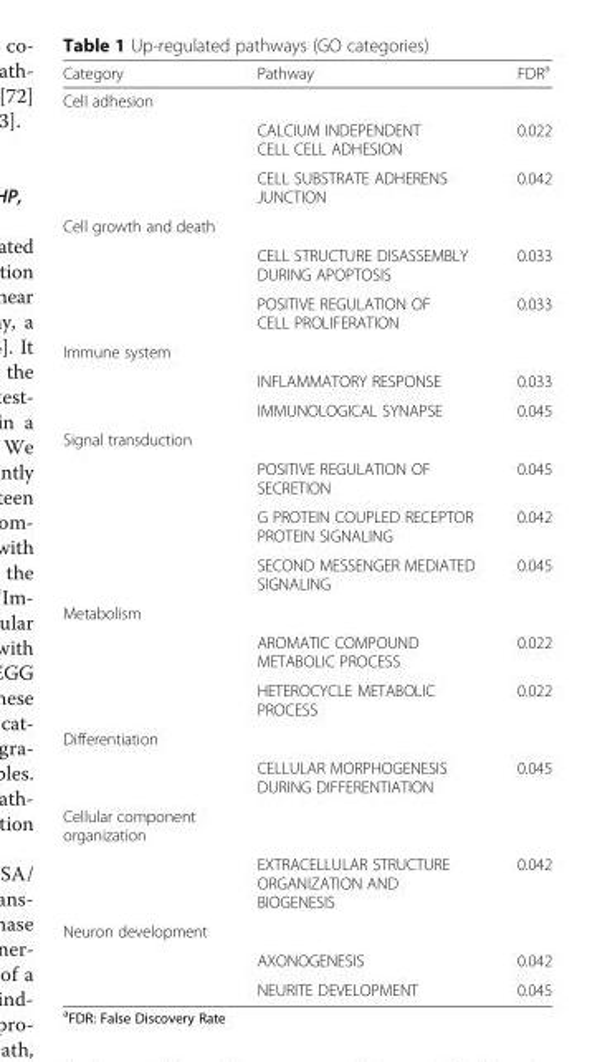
<table><thead><tr><td>Category</td><td>Pathway</td><td>FDR<sup>a</sup></td></tr></thead><tbody><tr><td colspan="3">Cell adhesion</td></tr><tr><td></td><td>CALCIUM INDEPENDENT CELL CELL ADHESION</td><td>0.022</td></tr><tr><td></td><td>CELL SUBSTRATE ADHERENS JUNCTION</td><td>0.042</td></tr><tr><td colspan="3">Cell growth and death</td></tr><tr><td></td><td>CELL STRUCTURE DISASSEMBLY DURING APOPTOSIS</td><td>0.033</td></tr><tr><td></td><td>POSITIVE REGULATION OF CELL PROLIFERATION</td><td>0.033</td></tr><tr><td colspan="3">Immune system</td></tr><tr><td></td><td>INFLAMMATORY RESPONSE</td><td>0.033</td></tr><tr><td></td><td>IMMUNOLOGICAL SYNAPSE</td><td>0.045</td></tr><tr><td colspan="3">Signal transduction</td></tr><tr><td></td><td>POSITIVE REGULATION OF SECRETION</td><td>0.045</td></tr><tr><td></td><td>G PROTEIN COUPLED RECEPTOR PROTEIN SIGNALING</td><td>0.042</td></tr><tr><td></td><td>SECOND MESSENGER MEDIATED SIGNALING</td><td>0.045</td></tr><tr><td colspan="3">Metabolism</td></tr><tr><td></td><td>AROMATIC COMPOUND METABOLIC PROCESS</td><td>0.022</td></tr><tr><td></td><td>HETEROCYCLE METABOLIC PROCESS</td><td>0.022</td></tr><tr><td colspan="3">Differentiation</td></tr><tr><td></td><td>CELLULAR MORPHOGENESIS DURING DIFFERENTIATION</td><td>0.045</td></tr><tr><td colspan="3">Cellular component organization</td></tr><tr><td></td><td>EXTRACELLULAR STRUCTURE ORGANIZATION AND BIOGENESIS</td><td>0.042</td></tr><tr><td colspan="3">Neuron development</td></tr><tr><td></td><td>AXONOGENESIS</td><td>0.042</td></tr><tr><td></td><td>NEURITE DEVELOPMENT</td><td>0.045</td></tr></tbody></table>